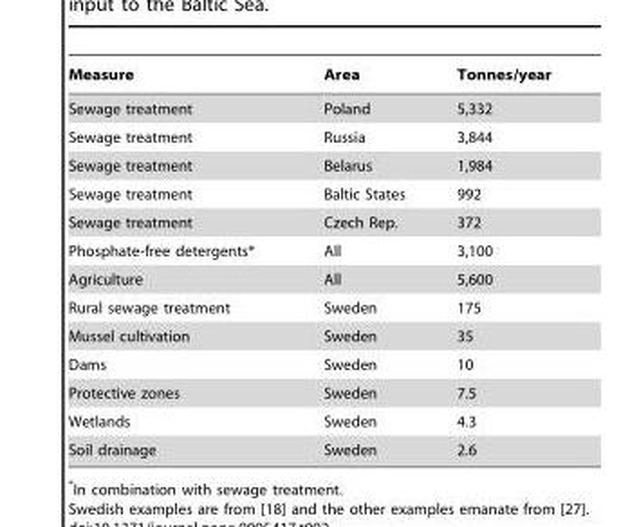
<table><thead><tr><td>Measure</td><td>Area</td><td>Tonnes/year</td></tr></thead><tbody><tr><td>Sewage treatment</td><td>Poland</td><td>5,332</td></tr><tr><td>Sewage treatment</td><td>Russia</td><td>3,844</td></tr><tr><td>Sewage treatment</td><td>Belarus</td><td>1,984</td></tr><tr><td>Sewage treatment</td><td>Baltic States</td><td>992</td></tr><tr><td>Sewage treatment</td><td>Czech Rep.</td><td>372</td></tr><tr><td>Phosphate-free detergents*</td><td>All</td><td>3,100</td></tr><tr><td>Agriculture</td><td>All</td><td>5,600</td></tr><tr><td>Rural sewage treatment</td><td>Sweden</td><td>175</td></tr><tr><td>Mussel cultivation</td><td>Sweden</td><td>35</td></tr><tr><td>Dams</td><td>Sweden</td><td>10</td></tr><tr><td>Protective zones</td><td>Sweden</td><td>7.5</td></tr><tr><td>Wetlands</td><td>Sweden</td><td>4.3</td></tr><tr><td>Soil drainage</td><td>Sweden</td><td>2.6</td></tr></tbody></table>